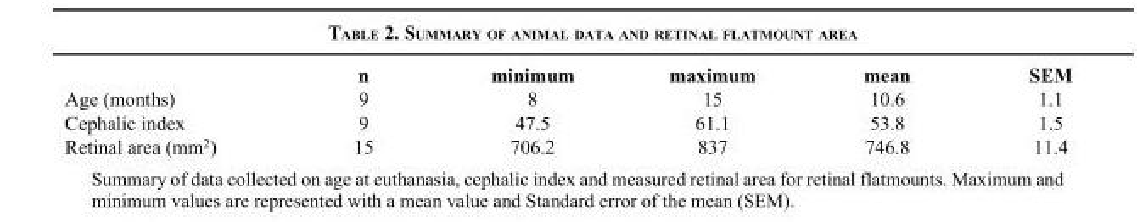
<table><thead><tr><td></td><td>n</td><td>minimum</td><td>maximum</td><td>mean</td><td>SEM</td></tr></thead><tbody><tr><td>Age (months)</td><td>9</td><td>8</td><td>15</td><td>10.6</td><td>1.1</td></tr><tr><td>Cephalic index</td><td>9</td><td>47.5</td><td>61.1</td><td>53.8</td><td>1.5</td></tr><tr><td>Retinal area (mm<sup>2</sup>)</td><td>15</td><td>706.2</td><td>837</td><td>746.8</td><td>11.4</td></tr></tbody></table>